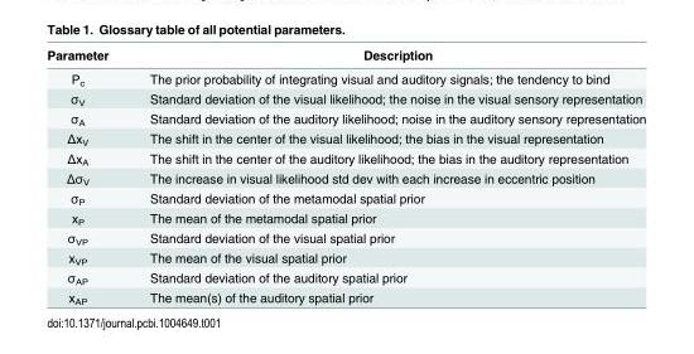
<table><thead><tr><td>Parameter</td><td>Description</td></tr></thead><tbody><tr><td>P<sub>c</sub></td><td>The prior probability of integrating visual and auditory signals; the tendency to bind</td></tr><tr><td>σ<sub>V</sub></td><td>Standard deviation of the visual likelihood; the noise in the visual sensory representation</td></tr><tr><td>σ<sub>A</sub></td><td>Standard deviation of the auditory likelihood; noise in the auditory sensory representation</td></tr><tr><td>Δx<sub>V</sub></td><td>The shift in the center of the visual likelihood; the bias in the visual representation</td></tr><tr><td>Δx<sub>A</sub></td><td>The shift in the center of the auditory likelihood; the bias in the auditory representation</td></tr><tr><td>Δσ<sub>V</sub></td><td>The increase in visual likelihood std dev with each increase in eccentric position</td></tr><tr><td>σ<sub>P</sub></td><td>Standard deviation of the metamodal spatial prior</td></tr><tr><td>x<sub>P</sub></td><td>The mean of the metamodal spatial prior</td></tr><tr><td>σ<sub>VP</sub></td><td>Standard deviation of the visual spatial prior</td></tr><tr><td>x<sub>VP</sub></td><td>The mean of the visual spatial prior</td></tr><tr><td>σ<sub>AP</sub></td><td>Standard deviation of the auditory spatial prior</td></tr><tr><td>x<sub>AP</sub></td><td>The mean(s) of the auditory spatial prior</td></tr></tbody></table>